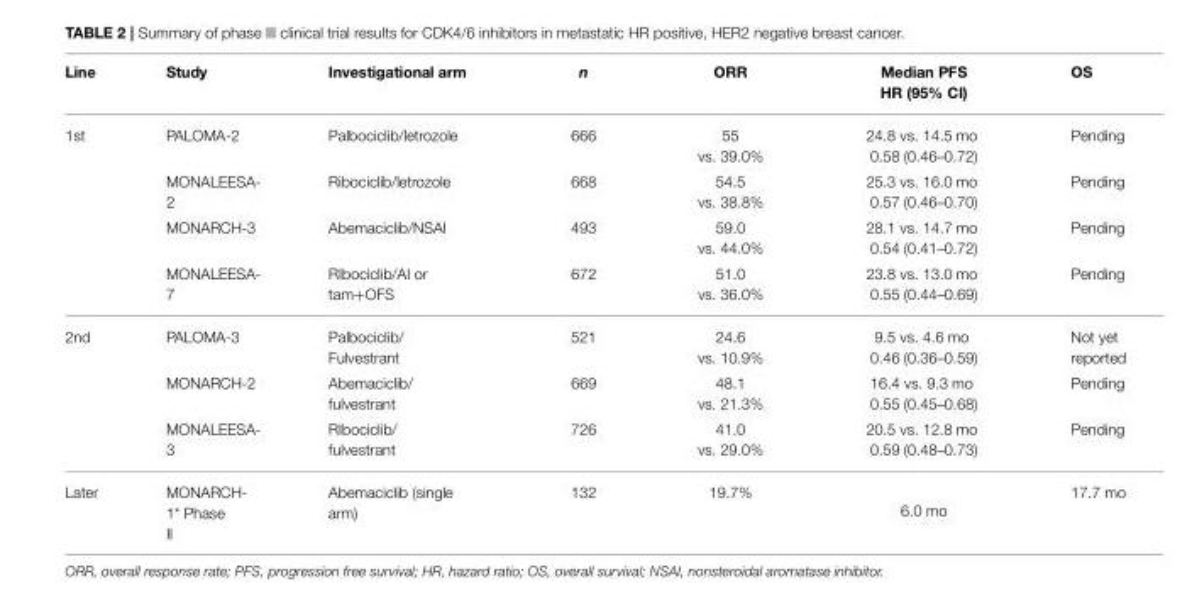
<table><thead><tr><td>Line</td><td>Study</td><td>Investigational arm</td><td>n</td><td>ORR</td><td>Median PFS HR (95% CI)</td><td>OS</td></tr></thead><tbody><tr><td rowspan="4">1st</td><td>PALOMA-2</td><td>Palbociclib/letrozole</td><td>666</td><td>55 vs. 39.0%</td><td>24.8 vs. 14.5 mo 0.58 (0.46–0.72)</td><td>Pending</td></tr><tr><td>MONALEESA- 2</td><td>Ribociclib/letrozole</td><td>668</td><td>54.5 vs. 38.8%</td><td>25.3 vs. 16.0 mo 0.57 (0.46–0.70)</td><td>Pending</td></tr><tr><td>MONARCH-3</td><td>Abemaciclib/NSAI</td><td>493</td><td>59.0 vs. 44.0%</td><td>28.1 vs. 14.7 mo 0.54 (0.41–0.72)</td><td>Pending</td></tr><tr><td>MONALEESA- 7</td><td>RIbociclib/AI or tam+OFS</td><td>672</td><td>51.0 vs. 36.0%</td><td>23.8 vs. 13.0 mo 0.55 (0.44–0.69)</td><td>Pending</td></tr><tr><td rowspan="3">2nd</td><td>PALOMA-3</td><td>Palbociclib/ Fulvestrant</td><td>521</td><td>24.6 vs. 10.9%</td><td>9.5 vs. 4.6 mo 0.46 (0.36–0.59)</td><td>Not yet reported</td></tr><tr><td>MONARCH-2</td><td>Abemaciclib/ fulvestrant</td><td>669</td><td>48.1 vs. 21.3%</td><td>16.4 vs. 9.3 mo 0.55 (0.45–0.68)</td><td>Pending</td></tr><tr><td>MONALEESA- 3</td><td>RIbociclib/ fulvestrant</td><td>726</td><td>41.0 vs. 29.0%</td><td>20.5 vs. 12.8 mo 0.59 (0.48–0.73)</td><td>Pending</td></tr><tr><td>Later</td><td>MONARCH- 1* Phase II</td><td>Abemaciclib (single arm)</td><td>132</td><td>19.7%</td><td>6.0 mo</td><td>17.7 mo</td></tr></tbody></table>